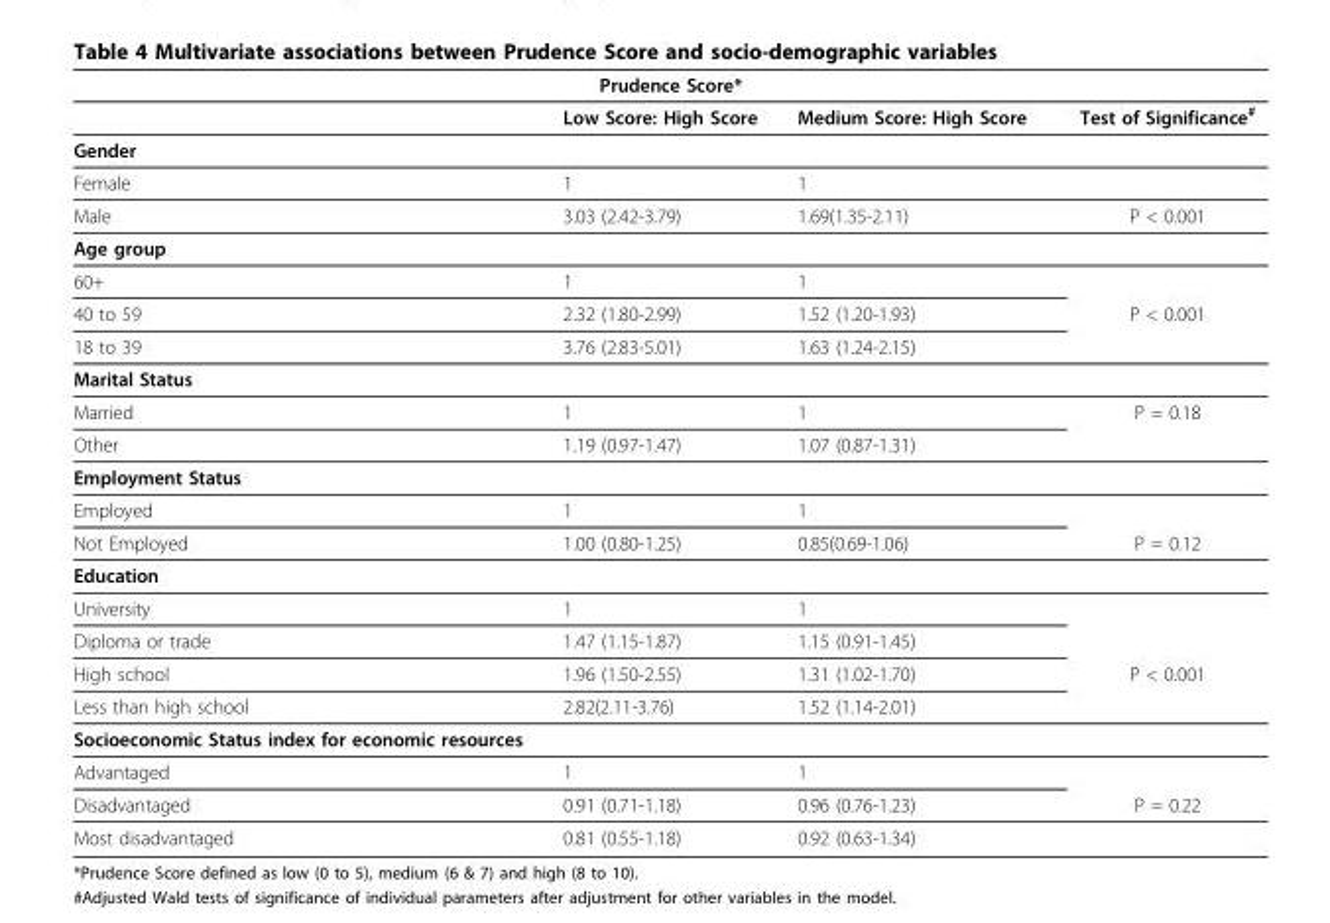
<table><thead><tr><td colspan="4">Prudence Score*</td></tr><tr><td></td><td>Low Score: High Score</td><td>Medium Score: High Score</td><td>Test of Significance<sup>#</sup></td></tr></thead><tbody><tr><td colspan="4">Gender</td></tr><tr><td>Female</td><td>1</td><td>1</td><td></td></tr><tr><td>Male</td><td>3.03 (2.42-3.79)</td><td>1.69(1.35-2.11)</td><td>P &lt; 0.001</td></tr><tr><td colspan="4">Age group</td></tr><tr><td>60+</td><td>1</td><td>1</td><td></td></tr><tr><td>40 to 59</td><td>2.32 (1.80-2.99)</td><td>1.52 (1.20-1.93)</td><td>P &lt; 0.001</td></tr><tr><td>18 to 39</td><td>3.76 (2.83-5.01)</td><td>1.63 (1.24-2.15)</td><td></td></tr><tr><td colspan="4">Marital Status</td></tr><tr><td>Married</td><td>1</td><td>1</td><td>P = 0.18</td></tr><tr><td>Other</td><td>1.19 (0.97-1.47)</td><td>1.07 (0.87-1.31)</td><td></td></tr><tr><td colspan="4">Employment Status</td></tr><tr><td>Employed</td><td>1</td><td>1</td><td></td></tr><tr><td>Not Employed</td><td>1.00 (0.80-1.25)</td><td>0.85(0.69-1.06)</td><td>P = 0.12</td></tr><tr><td colspan="4">Education</td></tr><tr><td>University</td><td>1</td><td>1</td><td></td></tr><tr><td>Diploma or trade</td><td>1.47 (1.15-1.87)</td><td>1.15 (0.91-1.45)</td><td></td></tr><tr><td>High school</td><td>1.96 (1.50-2.55)</td><td>1.31 (1.02-1.70)</td><td>P &lt; 0.001</td></tr><tr><td>Less than high school</td><td>2.82(2.11-3.76)</td><td>1.52 (1.14-2.01)</td><td></td></tr><tr><td colspan="4">Socioeconomic Status index for economic resources</td></tr><tr><td>Advantaged</td><td>1</td><td>1</td><td></td></tr><tr><td>Disadvantaged</td><td>0.91 (0.71-1.18)</td><td>0.96 (0.76-1.23)</td><td>P = 0.22</td></tr><tr><td>Most disadvantaged</td><td>0.81 (0.55-1.18)</td><td>0.92 (0.63-1.34)</td><td></td></tr></tbody></table>